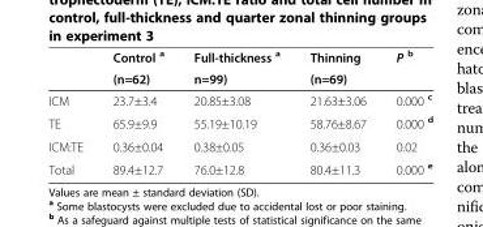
<table><thead><tr><td rowspan="2"></td><td rowspan="2">Control <sup>a</sup> (n=62)</td><td rowspan="2">Full-thickness <sup>a</sup> n=99)</td><td rowspan="2">Thinning (n=69)</td><td rowspan="2">P <sup>b</sup></td></tr><tr></tr></thead><tbody><tr><td>ICM</td><td>23.7±3.4</td><td>20.85±3.08</td><td>21.63±3.06</td><td>0.000 <sup>c</sup></td></tr><tr><td>TE</td><td>65.9±9.9</td><td>55.19±10.19</td><td>58.76±8.67</td><td>0.000 <sup>d</sup></td></tr><tr><td>ICM:TE</td><td>0.36±0.04</td><td>0.38±0.05</td><td>0.36±0.03</td><td>0.02</td></tr><tr><td>Total</td><td>89.4±12.7</td><td>76.0±12.8</td><td>80.4±11.3</td><td>0.000 <sup>e</sup></td></tr></tbody></table>